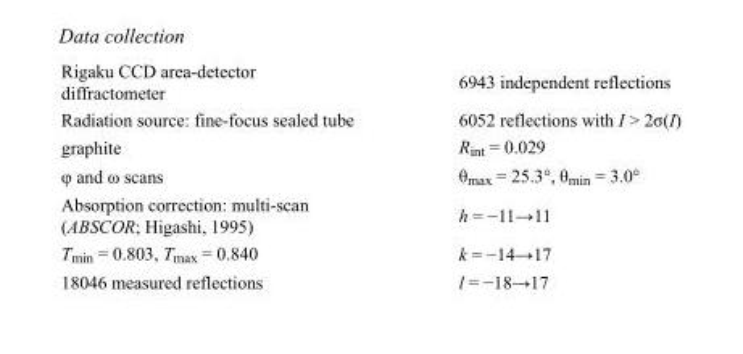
<table><tbody><tr><td>Rigaku CCD area-detector diffractometer</td><td>6943 independent reflections</td></tr><tr><td>Radiation source: fine-focus sealed tube</td><td>6052 reflections with I &gt; 2σ(I)</td></tr><tr><td>graphite</td><td>R<sub>int</sub> = 0.029</td></tr><tr><td>φ and ω scans</td><td>θ<sub>max</sub> = 25.3°, θ<sub>min</sub> = 3.0°</td></tr><tr><td>Absorption correction: multi-scan (ABSCOR; Higashi, 1995)</td><td>h = −11→11</td></tr><tr><td>T<sub>min</sub> = 0.803, T<sub>max</sub> = 0.840</td><td>k = −14→17</td></tr><tr><td>18046 measured reflections</td><td>l = −18→17</td></tr></tbody></table>